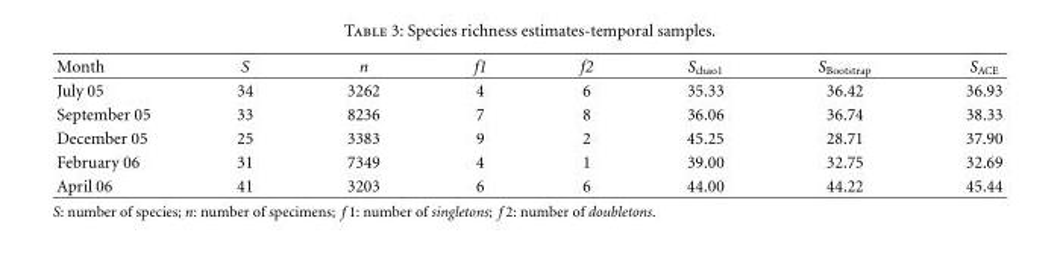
<table><thead><tr><td>Month</td><td>S</td><td>n</td><td>f1</td><td>f2</td><td>S<sub>chao1</sub></td><td>S<sub>Bootstrap</sub></td><td>S<sub>ACE</sub></td></tr></thead><tbody><tr><td>July 05</td><td>34</td><td>3262</td><td>4</td><td>6</td><td>35.33</td><td>36.42</td><td>36.93</td></tr><tr><td>September 05</td><td>33</td><td>8236</td><td>7</td><td>8</td><td>36.06</td><td>36.74</td><td>38.33</td></tr><tr><td>December 05</td><td>25</td><td>3383</td><td>9</td><td>2</td><td>45.25</td><td>28.71</td><td>37.90</td></tr><tr><td>February 06</td><td>31</td><td>7349</td><td>4</td><td>1</td><td>39.00</td><td>32.75</td><td>32.69</td></tr><tr><td>April 06</td><td>41</td><td>3203</td><td>6</td><td>6</td><td>44.00</td><td>44.22</td><td>45.44</td></tr></tbody></table>